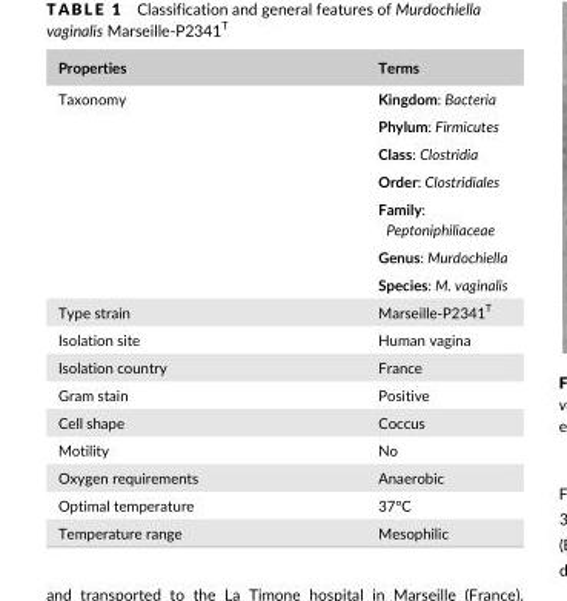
<table><thead><tr><td>Properties</td><td>Terms</td></tr></thead><tbody><tr><td rowspan="7">Taxonomy</td><td>Kingdom: Bacteria</td></tr><tr><td>Phylum: Firmicutes</td></tr><tr><td>Class: Clostridia</td></tr><tr><td>Order: Clostridiales</td></tr><tr><td>Family: Peptoniphiliaceae</td></tr><tr><td>Genus: Murdochiella</td></tr><tr><td>Species: M. vaginalis</td></tr><tr><td>Type strain</td><td>Marseille- P2341<sup>T</sup></td></tr><tr><td>Isolation site</td><td>Human vagina</td></tr><tr><td>Isolation country</td><td>France</td></tr><tr><td>Gram stain</td><td>Positive</td></tr><tr><td>Cell shape</td><td>Coccus</td></tr><tr><td>Motility</td><td>No</td></tr><tr><td>Oxygen requirements</td><td>Anaerobic</td></tr><tr><td>Optimal temperature</td><td>37°C</td></tr><tr><td>Temperature range</td><td>Mesophilic</td></tr></tbody></table>